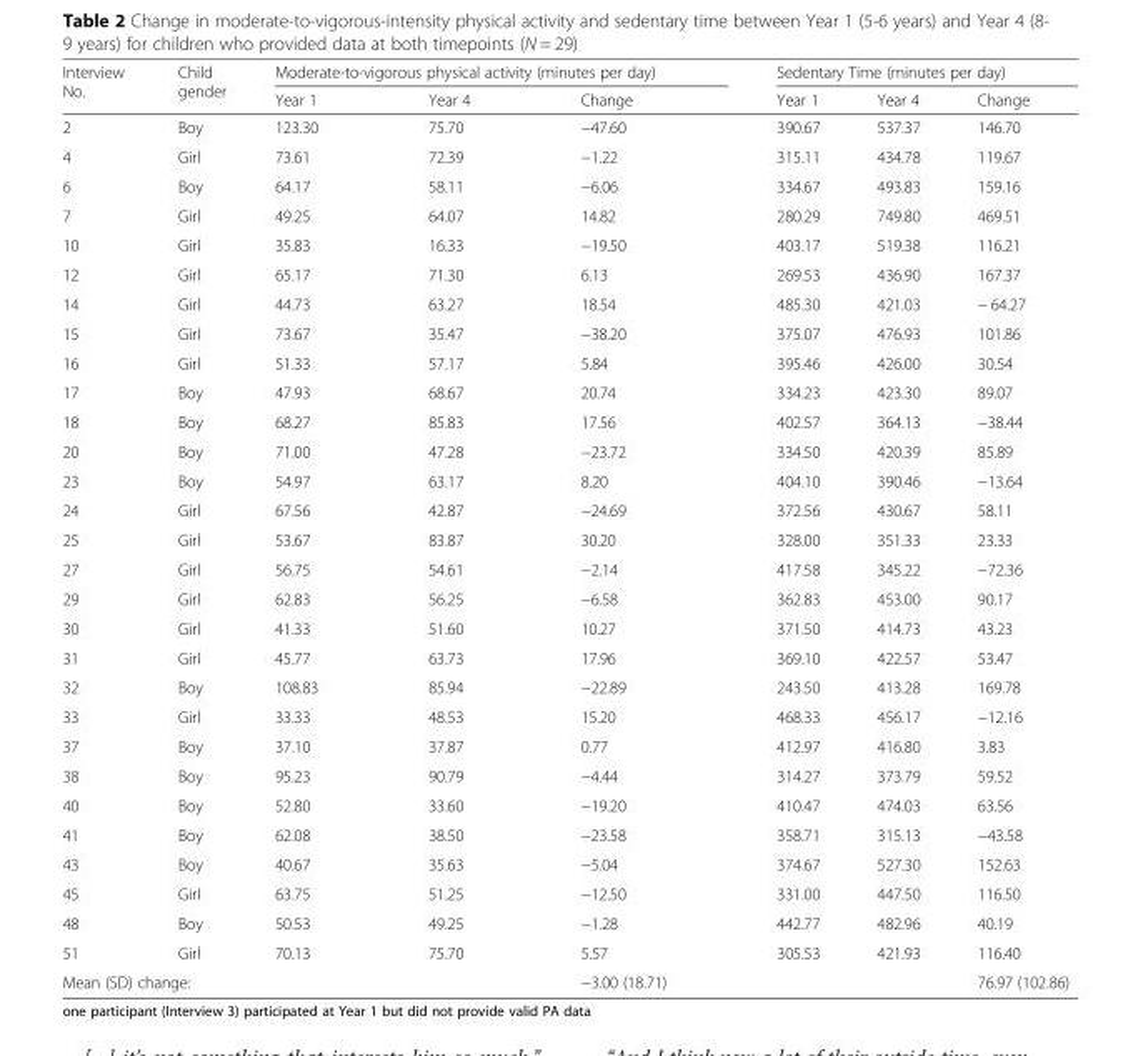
<table><thead><tr><td rowspan="2">Interview No.</td><td rowspan="2">Child gender</td><td colspan="3">Moderate-to-vigorous physical activity (minutes per day)</td><td colspan="3">Sedentary Time (minutes per day)</td></tr><tr><td>Year 1</td><td>Year 4</td><td>Change</td><td>Year 1</td><td>Year 4</td><td>Change</td></tr></thead><tbody><tr><td>2</td><td>Boy</td><td>123.30</td><td>75.70</td><td>−47.60</td><td>390.67</td><td>537.37</td><td>146.70</td></tr><tr><td>4</td><td>Girl</td><td>73.61</td><td>72.39</td><td>−1.22</td><td>315.11</td><td>434.78</td><td>119.67</td></tr><tr><td>6</td><td>Boy</td><td>64.17</td><td>58.11</td><td>−6.06</td><td>334.67</td><td>493.83</td><td>159.16</td></tr><tr><td>7</td><td>Girl</td><td>49.25</td><td>64.07</td><td>14.82</td><td>280.29</td><td>749.80</td><td>469.51</td></tr><tr><td>10</td><td>Girl</td><td>35.83</td><td>16.33</td><td>−19.50</td><td>403.17</td><td>519.38</td><td>116.21</td></tr><tr><td>12</td><td>Girl</td><td>65.17</td><td>71.30</td><td>6.13</td><td>269.53</td><td>436.90</td><td>167.37</td></tr><tr><td>14</td><td>Girl</td><td>44.73</td><td>63.27</td><td>18.54</td><td>485.30</td><td>421.03</td><td>− 64.27</td></tr><tr><td>15</td><td>Girl</td><td>73.67</td><td>35.47</td><td>−38.20</td><td>375.07</td><td>476.93</td><td>101.86</td></tr><tr><td>16</td><td>Girl</td><td>51.33</td><td>57.17</td><td>5.84</td><td>395.46</td><td>426.00</td><td>30.54</td></tr><tr><td>17</td><td>Boy</td><td>47.93</td><td>68.67</td><td>20.74</td><td>334.23</td><td>423.30</td><td>89.07</td></tr><tr><td>18</td><td>Boy</td><td>68.27</td><td>85.83</td><td>17.56</td><td>402.57</td><td>364.13</td><td>−38.44</td></tr><tr><td>20</td><td>Boy</td><td>71.00</td><td>47.28</td><td>−23.72</td><td>334.50</td><td>420.39</td><td>85.89</td></tr><tr><td>23</td><td>Boy</td><td>54.97</td><td>63.17</td><td>8.20</td><td>404.10</td><td>390.46</td><td>−13.64</td></tr><tr><td>24</td><td>Girl</td><td>67.56</td><td>42.87</td><td>−24.69</td><td>372.56</td><td>430.67</td><td>58.11</td></tr><tr><td>25</td><td>Girl</td><td>53.67</td><td>83.87</td><td>30.20</td><td>328.00</td><td>351.33</td><td>23.33</td></tr><tr><td>27</td><td>Girl</td><td>56.75</td><td>54.61</td><td>−2.14</td><td>417.58</td><td>345.22</td><td>−72.36</td></tr><tr><td>29</td><td>Girl</td><td>62.83</td><td>56.25</td><td>−6.58</td><td>362.83</td><td>453.00</td><td>90.17</td></tr><tr><td>30</td><td>Girl</td><td>41.33</td><td>51.60</td><td>10.27</td><td>371.50</td><td>414.73</td><td>43.23</td></tr><tr><td>31</td><td>Girl</td><td>45.77</td><td>63.73</td><td>17.96</td><td>369.10</td><td>422.57</td><td>53.47</td></tr><tr><td>32</td><td>Boy</td><td>108.83</td><td>85.94</td><td>−22.89</td><td>243.50</td><td>413.28</td><td>169.78</td></tr><tr><td>33</td><td>Girl</td><td>33.33</td><td>48.53</td><td>15.20</td><td>468.33</td><td>456.17</td><td>−12.16</td></tr><tr><td>37</td><td>Boy</td><td>37.10</td><td>37.87</td><td>0.77</td><td>412.97</td><td>416.80</td><td>3.83</td></tr><tr><td>38</td><td>Boy</td><td>95.23</td><td>90.79</td><td>−4.44</td><td>314.27</td><td>373.79</td><td>59.52</td></tr><tr><td>40</td><td>Boy</td><td>52.80</td><td>33.60</td><td>−19.20</td><td>410.47</td><td>474.03</td><td>63.56</td></tr><tr><td>41</td><td>Boy</td><td>62.08</td><td>38.50</td><td>−23.58</td><td>358.71</td><td>315.13</td><td>−43.58</td></tr><tr><td>43</td><td>Boy</td><td>40.67</td><td>35.63</td><td>−5.04</td><td>374.67</td><td>527.30</td><td>152.63</td></tr><tr><td>45</td><td>Girl</td><td>63.75</td><td>51.25</td><td>−12.50</td><td>331.00</td><td>447.50</td><td>116.50</td></tr><tr><td>48</td><td>Boy</td><td>50.53</td><td>49.25</td><td>−1.28</td><td>442.77</td><td>482.96</td><td>40.19</td></tr><tr><td>51</td><td>Girl</td><td>70.13</td><td>75.70</td><td>5.57</td><td>305.53</td><td>421.93</td><td>116.40</td></tr><tr><td colspan="2">Mean (SD) change:</td><td></td><td></td><td>−3.00 (18.71)</td><td></td><td></td><td>76.97 (102.86)</td></tr></tbody></table>